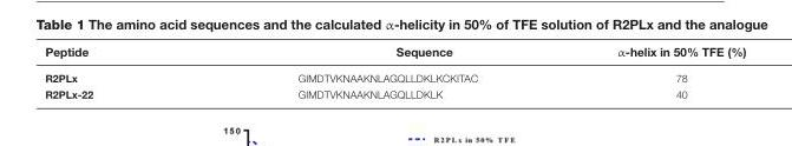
<table><thead><tr><td>Peptide</td><td>Sequence</td><td>α-helix in 50% TFE (%)</td></tr></thead><tbody><tr><td>R2PLx</td><td>GIMDTVKNAAKNLAGQLLDKLKCKITAC</td><td>78</td></tr><tr><td>R2PLx-22</td><td>GIMDTVKNAAKNLAGQLLDKLK</td><td>40</td></tr></tbody></table>